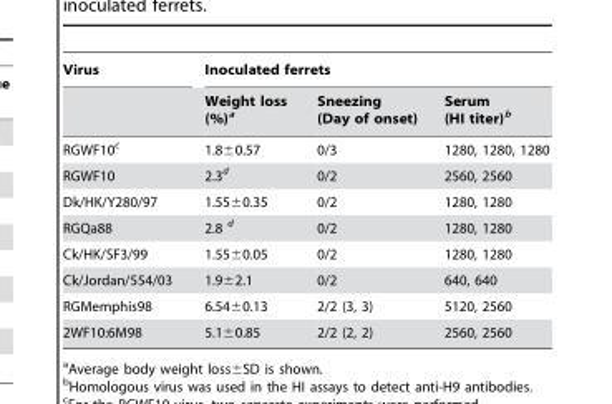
<table><thead><tr><td rowspan="2">Virus</td><td colspan="3">Inoculated ferrets</td></tr><tr><td>Weight loss (%)<sup>a</sup></td><td>Sneezing (Day of onset)</td><td>Serum (HI titer)<sup>b</sup></td></tr></thead><tbody><tr><td>RGWF10<sup>c</sup></td><td>1.8±0.57</td><td>0/3</td><td>1280, 1280, 1280</td></tr><tr><td>RGWF10</td><td>2.3<sup>d</sup></td><td>0/2</td><td>2560, 2560</td></tr><tr><td>Dk/HK/Y280/97</td><td>1.55±0.35</td><td>0/2</td><td>1280, 1280</td></tr><tr><td>RGQa88</td><td>2.8 d</td><td>0/2</td><td>1280, 1280</td></tr><tr><td>Ck/HK/SF3/99</td><td>1.55±0.05</td><td>0/2</td><td>1280, 1280</td></tr><tr><td>Ck/Jordan/554/03</td><td>1.9±2.1</td><td>0/2</td><td>640, 640</td></tr><tr><td>RGMemphis98</td><td>6.54±0.13</td><td>2/2 (3, 3)</td><td>5120, 2560</td></tr><tr><td>2WF10:6M98</td><td>5.1±0.85</td><td>2/2 (2, 2)</td><td>2560, 2560</td></tr></tbody></table>